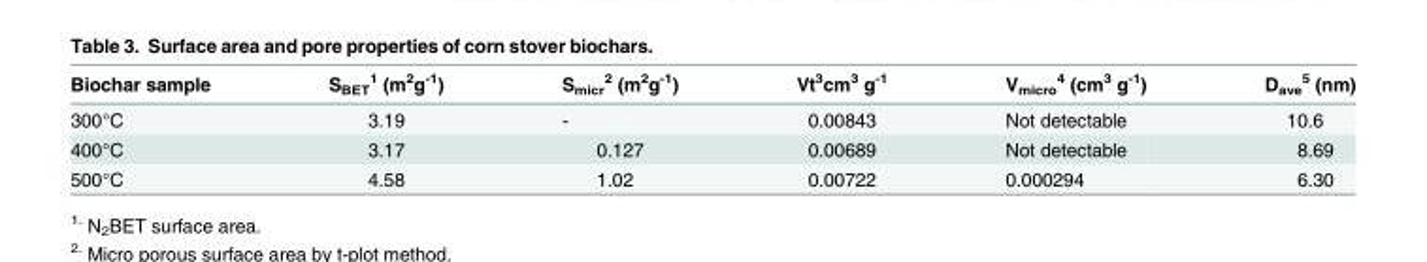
<table><thead><tr><td>Biochar sample</td><td>S<sub>BET</sub> <sup>1</sup> (m<sup>2</sup>g<sup>-1</sup>)</td><td>S<sub>micr</sub> <sup>2</sup> (m<sup>2</sup>g<sup>-1</sup>)</td><td>Vt<sup>3</sup>cm<sup>3</sup> g<sup>-1</sup></td><td>V<sub>micro</sub> <sup>4</sup> (cm<sup>3</sup> g<sup>-1</sup>)</td><td>D<sub>ave</sub> <sup>5</sup> (nm)</td></tr></thead><tbody><tr><td>300°C</td><td>3.19</td><td>-</td><td>0.00843</td><td>Not detectable</td><td>10.6</td></tr><tr><td>400°C</td><td>3.17</td><td>0.127</td><td>0.00689</td><td>Not detectable</td><td>8.69</td></tr><tr><td>500°C</td><td>4.58</td><td>1.02</td><td>0.00722</td><td>0.000294</td><td>6.30</td></tr></tbody></table>